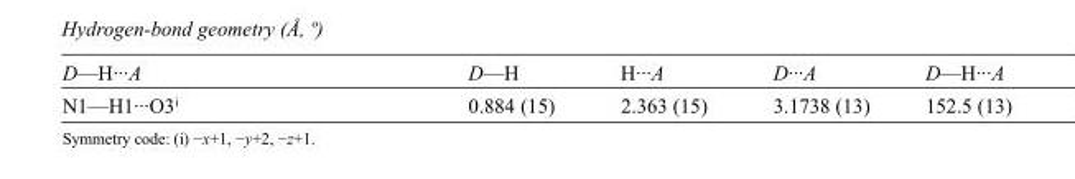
<table><tbody><tr><td>D—H···A</td><td>D—H</td><td>H···A</td><td>D···A</td><td>D—H···A</td></tr><tr><td>N1—H1···O3<sup>i</sup></td><td>0.884 (15)</td><td>2.363 (15)</td><td>3.1738 (13)</td><td>152.5 (13)</td></tr></tbody></table>